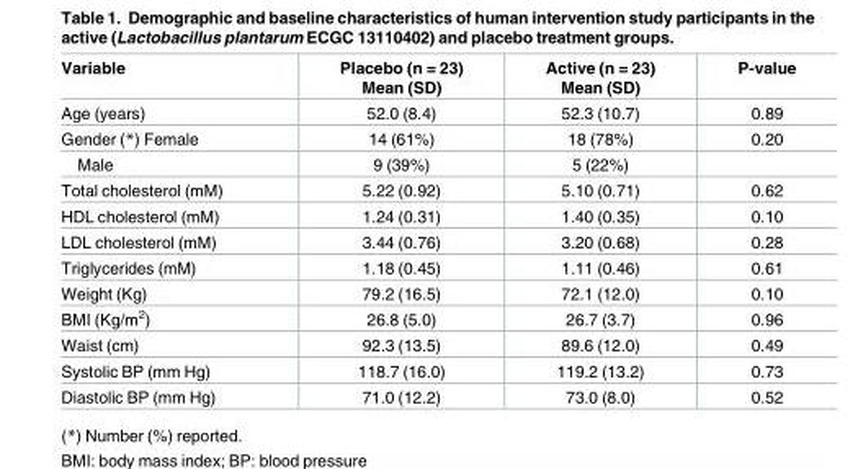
<table><thead><tr><td>Variable</td><td>Placebo (n = 23) Mean (SD)</td><td>Active (n = 23) Mean (SD)</td><td>P-value</td></tr></thead><tbody><tr><td>Age (years)</td><td>52.0 (8.4)</td><td>52.3 (10.7)</td><td>0.89</td></tr><tr><td>Gender (*) Female</td><td>14 (61%)</td><td>18 (78%)</td><td>0.20</td></tr><tr><td>Male</td><td>9 (39%)</td><td>5 (22%)</td><td></td></tr><tr><td>Total cholesterol (mM)</td><td>5.22 (0.92)</td><td>5.10 (0.71)</td><td>0.62</td></tr><tr><td>HDL cholesterol (mM)</td><td>1.24 (0.31)</td><td>1.40 (0.35)</td><td>0.10</td></tr><tr><td>LDL cholesterol (mM)</td><td>3.44 (0.76)</td><td>3.20 (0.68)</td><td>0.28</td></tr><tr><td>Triglycerides (mM)</td><td>1.18 (0.45)</td><td>1.11 (0.46)</td><td>0.61</td></tr><tr><td>Weight (Kg)</td><td>79.2 (16.5)</td><td>72.1 (12.0)</td><td>0.10</td></tr><tr><td>BMI (Kg/m<sup>2</sup>)</td><td>26.8 (5.0)</td><td>26.7 (3.7)</td><td>0.96</td></tr><tr><td>Waist (cm)</td><td>92.3 (13.5)</td><td>89.6 (12.0)</td><td>0.49</td></tr><tr><td>Systolic BP (mm Hg)</td><td>118.7 (16.0)</td><td>119.2 (13.2)</td><td>0.73</td></tr><tr><td>Diastolic BP (mm Hg)</td><td>71.0 (12.2)</td><td>73.0 (8.0)</td><td>0.52</td></tr></tbody></table>